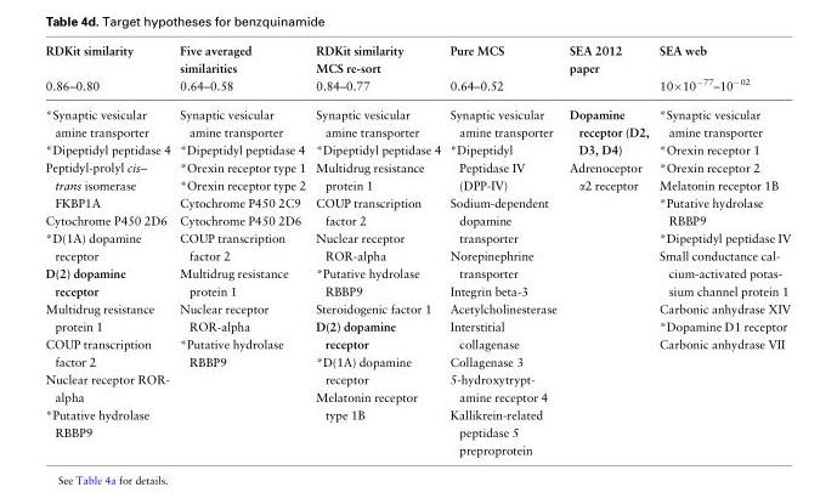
<table><thead><tr><td rowspan="3">RDKit similarity 0.86–0.80</td><td rowspan="3">Five averaged similarities 0.64–0.58</td><td rowspan="3">RDKit similarity MCS re-sort 0.84–0.77</td><td rowspan="3">Pure MCS 0.64–0.52</td><td rowspan="3">SEA 2012 paper</td><td rowspan="3">SEA web 10×10<sup>−77</sup>–10<sup>−02</sup></td></tr><tr></tr><tr></tr></thead><tbody><tr><td>*Synaptic vesicular amine transporter *Dipeptidyl peptidase 4 Peptidyl-prolyl cis– trans isomerase FKBP1A Cytochrome P450 2D6 *D(1A) dopamine receptor D(2) dopamine receptor Multidrug resistance protein 1 COUP transcription factor 2 Nuclear receptor ROR- alpha *Putative hydrolase RBBP9</td><td>Synaptic vesicular amine transporter *Dipeptidyl peptidase 4 *Orexin receptor type 1 *Orexin receptor type 2 Cytochrome P450 2C9 Cytochrome P450 2D6 COUP transcription factor 2 Multidrug resistance protein 1 Nuclear receptor ROR-alpha *Putative hydrolase RBBP9</td><td>Synaptic vesicular amine transporter *Dipeptidyl peptidase 4 Multidrug resistance protein 1 COUP transcription factor 2 Nuclear receptor ROR-alpha *Putative hydrolase RBBP9 Steroidogenic factor 1 D(2) dopamine receptor *D(1A) dopamine receptor Melatonin receptor type 1B</td><td>Synaptic vesicular amine transporter *Dipeptidyl Peptidase IV (DPP-IV) Sodium-dependent dopamine transporter Norepinephrine transporter Integrin beta-3 Acetylcholinesterase Interstitial collagenase Collagenase 3 5-hydroxytrypt- amine receptor 4 Kallikrein-related peptidase 5 preproprotein</td><td>Dopamine receptor (D2, D3, D4) Adrenoceptor α2 receptor</td><td>*Synaptic vesicular amine transporter *Orexin receptor 1 *Orexin receptor 2 Melatonin receptor 1B *Putative hydrolase RBBP9 *Dipeptidyl peptidase IV Small conductance cal- cium-activated potas- sium channel protein 1 Carbonic anhydrase XIV *Dopamine D1 receptor Carbonic anhydrase VII</td></tr></tbody></table>